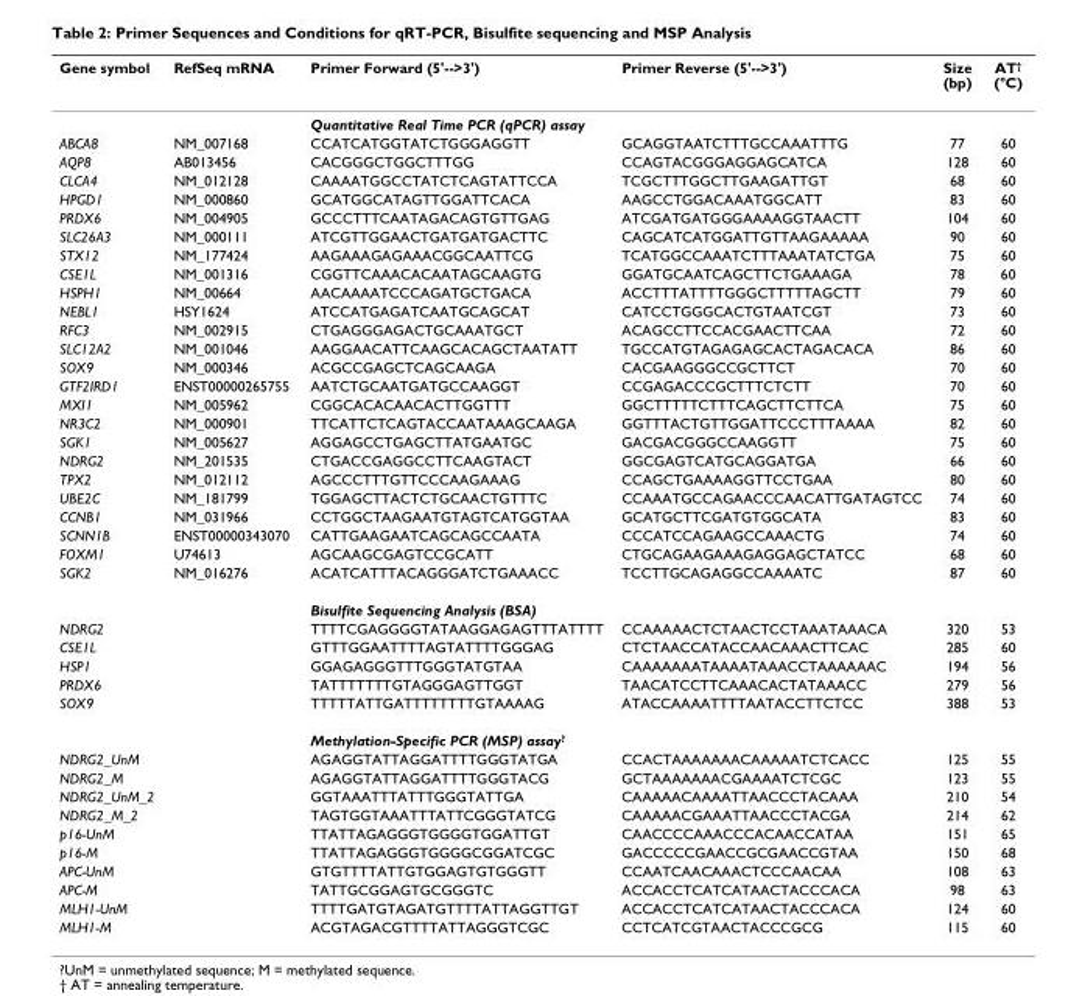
<table><thead><tr><td>Gene symbol</td><td>RefSeq mRNA</td><td>Primer Forward (5&#x27;--&gt;3&#x27;)</td><td>Primer Reverse (5&#x27;--&gt;3&#x27;)</td><td>Size (bp)</td><td>AT<sup>†</sup> (°C)</td></tr></thead><tbody><tr><td></td><td></td><td>Quantitative Real Time PCR (qPCR) assay</td><td></td><td></td><td></td></tr><tr><td>ABCA8</td><td>NM_007168</td><td>CCATCATGGTATCTGGGAGGTT</td><td>GCAGGTAATCTTTGCCAAATTTG</td><td>77</td><td>60</td></tr><tr><td>AQP8</td><td>AB013456</td><td>CACGGGCTGGCTTTGG</td><td>CCAGTACGGGAGGAGCATCA</td><td>128</td><td>60</td></tr><tr><td>CLCA4</td><td>NM_012128</td><td>CAAAATGGCCTATCTCAGTATTCCA</td><td>TCGCTTTGGCTTGAAGATTGT</td><td>68</td><td>60</td></tr><tr><td>HPGD1</td><td>NM_000860</td><td>GCATGGCATAGTTGGATTCACA</td><td>AAGCCTGGACAAATGGCATT</td><td>83</td><td>60</td></tr><tr><td>PRDX6</td><td>NM_004905</td><td>GCCCTTTCAATAGACAGTGTTGAG</td><td>ATCGATGATGGGAAAAGGTAACTT</td><td>104</td><td>60</td></tr><tr><td>SLC26A3</td><td>NM_000111</td><td>ATCGTTGGAACTGATGATGACTTC</td><td>CAGCATCATGGATTGTTAAGAAAAA</td><td>90</td><td>60</td></tr><tr><td>STX12</td><td>NM_177424</td><td>AAGAAAGAGAAACGGCAATTCG</td><td>TCATGGCCAAATCTTTAAATATCTGA</td><td>75</td><td>60</td></tr><tr><td>CSE1L</td><td>NM_001316</td><td>CGGTTCAAACACAATAGCAAGTG</td><td>GGATGCAATCAGCTTCTGAAAGA</td><td>78</td><td>60</td></tr><tr><td>HSPH1</td><td>NM_00664</td><td>AACAAAATCCCAGATGCTGACA</td><td>ACCTTTATTTTGGGCTTTTTAGCTT</td><td>79</td><td>60</td></tr><tr><td>NEBL1</td><td>HSY1624</td><td>ATCCATGAGATCAATGCAGCAT</td><td>CATCCTGGGCACTGTAATCGT</td><td>73</td><td>60</td></tr><tr><td>RFC3</td><td>NM_002915</td><td>CTGAGGGAGACTGCAAATGCT</td><td>ACAGCCTTCCACGAACTTCAA</td><td>72</td><td>60</td></tr><tr><td>SLC12A2</td><td>NM_001046</td><td>AAGGAACATTCAAGCACAGCTAATATT</td><td>TGCCATGTAGAGAGCACTAGACACA</td><td>86</td><td>60</td></tr><tr><td>SOX9</td><td>NM_000346</td><td>ACGCCGAGCTCAGCAAGA</td><td>CACGAAGGGCCGCTTCT</td><td>70</td><td>60</td></tr><tr><td>GTF2IRD1</td><td>ENST00000265755</td><td>AATCTGCAATGATGCCAAGGT</td><td>CCGAGACCCGCTTTCTCTT</td><td>70</td><td>60</td></tr><tr><td>MXI1</td><td>NM_005962</td><td>CGGCACACAACACTTGGTTT</td><td>GGCTTTTTCTTTCAGCTTCTTCA</td><td>75</td><td>60</td></tr><tr><td>NR3C2</td><td>NM_000901</td><td>TTCATTCTCAGTACCAATAAAGCAAGA</td><td>GGTTTACTGTTGGATTCCCTTTAAAA</td><td>82</td><td>60</td></tr><tr><td>SGK1</td><td>NM_005627</td><td>AGGAGCCTGAGCTTATGAATGC</td><td>GACGACGGGCCAAGGTT</td><td>75</td><td>60</td></tr><tr><td>NDRG2</td><td>NM_201535</td><td>CTGACCGAGGCCTTCAAGTACT</td><td>GGCGAGTCATGCAGGATGA</td><td>66</td><td>60</td></tr><tr><td>TPX2</td><td>NM_012112</td><td>AGCCCTTTGTTCCCAAGAAAG</td><td>CCAGCTGAAAAGGTTCCTGAA</td><td>80</td><td>60</td></tr><tr><td>UBE2C</td><td>NM_181799</td><td>TGGAGCTTACTCTGCAACTGTTTC</td><td>CCAAATGCCAGAACCCAACATTGATAGTCC</td><td>74</td><td>60</td></tr><tr><td>CCNB1</td><td>NM_031966</td><td>CCTGGCTAAGAATGTAGTCATGGTAA</td><td>GCATGCTTCGATGTGGCATA</td><td>83</td><td>60</td></tr><tr><td>SCNN1B</td><td>ENST00000343070</td><td>CATTGAAGAATCAGCAGCCAATA</td><td>CCCATCCAGAAGCCAAACTG</td><td>74</td><td>60</td></tr><tr><td>FOXM1</td><td>U74613</td><td>AGCAAGCGAGTCCGCATT</td><td>CTGCAGAAGAAAGAGGAGCTATCC</td><td>68</td><td>60</td></tr><tr><td rowspan="2">SGK2</td><td>NM_016276</td><td>ACATCATTTACAGGGATCTGAAACC</td><td>TCCTTGCAGAGGCCAAAATC</td><td>87</td><td>60</td></tr><tr><td></td><td>Bisulfite Sequencing Analysis (BSA)</td><td></td><td></td><td></td></tr><tr><td>NDRG2</td><td></td><td>TTTTCGAGGGGTATAAGGAGAGTTTATTTT</td><td>CCAAAAACTCTAACTCCTAAATAAACA</td><td>320</td><td>53</td></tr><tr><td>CSE1L</td><td></td><td>GTTTGGAATTTTAGTATTTTGGGAG</td><td>CTCTAACCATACCAACAAACTTCAC</td><td>285</td><td>60</td></tr><tr><td>HSP1</td><td></td><td>GGAGAGGGTTTGGGTATGTAA</td><td>CAAAAAAATAAAATAAACCTAAAAAAC</td><td>194</td><td>56</td></tr><tr><td>PRDX6</td><td></td><td>TATTTTTTTGTAGGGAGTTGGT</td><td>TAACATCCTTCAAACACTATAAACC</td><td>279</td><td>56</td></tr><tr><td rowspan="2">SOX9</td><td></td><td>TTTTTATTGATTTTTTTTGTAAAAG</td><td>ATACCAAAATTTTAATACCTTCTCC</td><td>388</td><td>53</td></tr><tr><td></td><td>Methylation-Specific PCR (MSP) assay<sup>?</sup></td><td></td><td></td><td></td></tr><tr><td>NDRG2_UnM</td><td></td><td>AGAGGTATTAGGATTTTGGGTATGA</td><td>CCACTAAAAAAACAAAAATCTCACC</td><td>125</td><td>55</td></tr><tr><td>NDRG2_M</td><td></td><td>AGAGGTATTAGGATTTTGGGTACG</td><td>GCTAAAAAAACGAAAATCTCGC</td><td>123</td><td>55</td></tr><tr><td>NDRG2_UnM_2</td><td></td><td>GGTAAATTTATTTGGGTATTGA</td><td>CAAAAACAAAATTAACCCTACAAA</td><td>210</td><td>54</td></tr><tr><td>NDRG2_M_2</td><td></td><td>TAGTGGTAAATTTATTCGGGTATCG</td><td>CAAAAACGAAATTAACCCTACGA</td><td>214</td><td>62</td></tr><tr><td>p16-UnM</td><td></td><td>TTATTAGAGGGTGGGGTGGATTGT</td><td>CAACCCCAAACCCACAACCATAA</td><td>151</td><td>65</td></tr><tr><td>p16-M</td><td></td><td>TTATTAGAGGGTGGGGCGGATCGC</td><td>GACCCCCGAACCGCGAACCGTAA</td><td>150</td><td>68</td></tr><tr><td>APC-UnM</td><td></td><td>GTGTTTTATTGTGGAGTGTGGGTT</td><td>CCAATCAACAAACTCCCAACAA</td><td>108</td><td>63</td></tr><tr><td>APC-M</td><td></td><td>TATTGCGGAGTGCGGGTC</td><td>ACCACCTCATCATAACTACCCACA</td><td>98</td><td>63</td></tr><tr><td>MLH1-UnM</td><td></td><td>TTTTGATGTAGATGTTTTATTAGGTTGT</td><td>ACCACCTCATCATAACTACCCACA</td><td>124</td><td>60</td></tr><tr><td>MLH1-M</td><td></td><td>ACGTAGACGTTTTATTAGGGTCGC</td><td>CCTCATCGTAACTACCCGCG</td><td>115</td><td>60</td></tr></tbody></table>